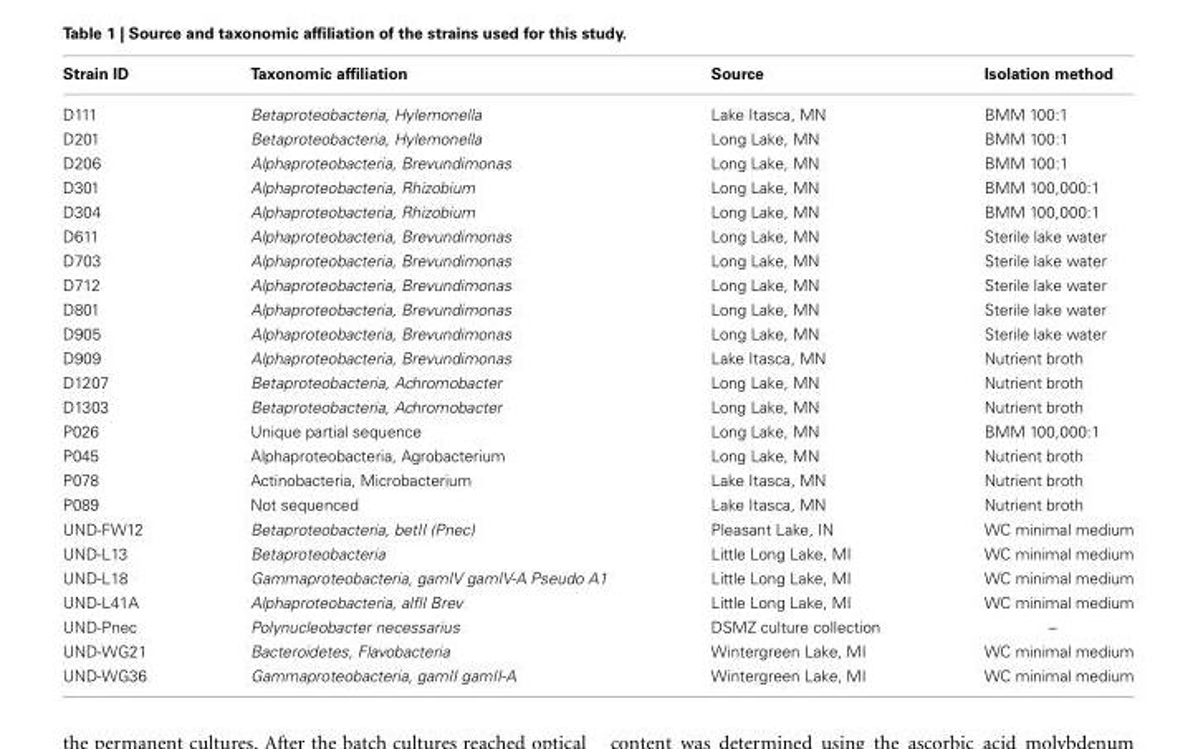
<table><thead><tr><td>Strain ID</td><td>Taxonomic affiliation</td><td>Source</td><td>Isolation method</td></tr></thead><tbody><tr><td>D111</td><td>Betaproteobacteria, Hylemonella</td><td>Lake Itasca, MN</td><td>BMM 100:1</td></tr><tr><td>D201</td><td>Betaproteobacteria, Hylemonella</td><td>Long Lake, MN</td><td>BMM 100:1</td></tr><tr><td>D206</td><td>Alphaproteobacteria, Brevundimonas</td><td>Long Lake, MN</td><td>BMM 100:1</td></tr><tr><td>D301</td><td>Alphaproteobacteria, Rhizobium</td><td>Long Lake, MN</td><td>BMM 100,000:1</td></tr><tr><td>D304</td><td>Alphaproteobacteria, Rhizobium</td><td>Long Lake, MN</td><td>BMM 100,000:1</td></tr><tr><td>D611</td><td>Alphaproteobacteria, Brevundimonas</td><td>Long Lake, MN</td><td>Sterile lake water</td></tr><tr><td>D703</td><td>Alphaproteobacteria, Brevundimonas</td><td>Long Lake, MN</td><td>Sterile lake water</td></tr><tr><td>D712</td><td>Alphaproteobacteria, Brevundimonas</td><td>Long Lake, MN</td><td>Sterile lake water</td></tr><tr><td>D801</td><td>Alphaproteobacteria, Brevundimonas</td><td>Long Lake, MN</td><td>Sterile lake water</td></tr><tr><td>D905</td><td>Alphaproteobacteria, Brevundimonas</td><td>Long Lake, MN</td><td>Sterile lake water</td></tr><tr><td>D909</td><td>Alphaproteobacteria, Brevundimonas</td><td>Lake Itasca, MN</td><td>Nutrient broth</td></tr><tr><td>D1207</td><td>Betaproteobacteria, Achromobacter</td><td>Long Lake, MN</td><td>Nutrient broth</td></tr><tr><td>D1303</td><td>Betaproteobacteria, Achromobacter</td><td>Long Lake, MN</td><td>Nutrient broth</td></tr><tr><td>P026</td><td>Unique partial sequence</td><td>Long Lake, MN</td><td>BMM 100,000:1</td></tr><tr><td>P045</td><td>Alphaproteobacteria, Agrobacterium</td><td>Long Lake, MN</td><td>Nutrient broth</td></tr><tr><td>P078</td><td>Actinobacteria, Microbacterium</td><td>Lake Itasca, MN</td><td>Nutrient broth</td></tr><tr><td>P089</td><td>Not sequenced</td><td>Lake Itasca, MN</td><td>Nutrient broth</td></tr><tr><td>UND-FW12</td><td>Betaproteobacteria, betII (Pnec)</td><td>Pleasant Lake, IN</td><td>WC minimal medium</td></tr><tr><td>UND-L13</td><td>Betaproteobacteria</td><td>Little Long Lake, MI</td><td>WC minimal medium</td></tr><tr><td>UND-L18</td><td>Gammaproteobacteria, gamIV gamIV-A Pseudo A1</td><td>Little Long Lake, MI</td><td>WC minimal medium</td></tr><tr><td>UND-L41A</td><td>Alphaproteobacteria, alflI Brev</td><td>Little Long Lake, MI</td><td>WC minimal medium</td></tr><tr><td>UND-Pnec</td><td>Polynucleobacter necessarius</td><td>DSMZ culture collection</td><td>–</td></tr><tr><td>UND-WG21</td><td>Bacteroidetes, Flavobacteria</td><td>Wintergreen Lake, MI</td><td>WC minimal medium</td></tr><tr><td>UND-WG36</td><td>Gammaproteobacteria, gamII gamII-A</td><td>Wintergreen Lake, MI</td><td>WC minimal medium</td></tr></tbody></table>